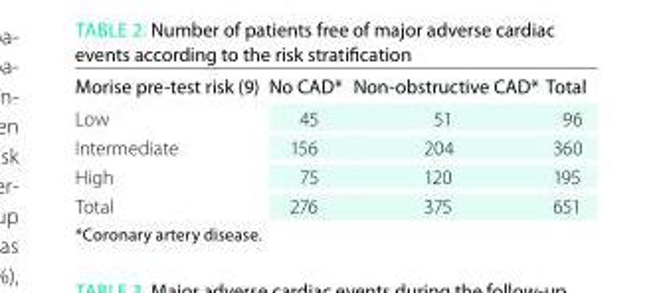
<table><thead><tr><td>Morise pre-test risk (9)</td><td>no CaD*</td><td>non-obstructive CaD*</td><td>total</td></tr></thead><tbody><tr><td>Low</td><td>45</td><td>51</td><td>96</td></tr><tr><td>Intermediate</td><td>156</td><td>204</td><td>360</td></tr><tr><td>High</td><td>75</td><td>120</td><td>195</td></tr><tr><td>Total</td><td>276</td><td>375</td><td>651</td></tr></tbody></table>